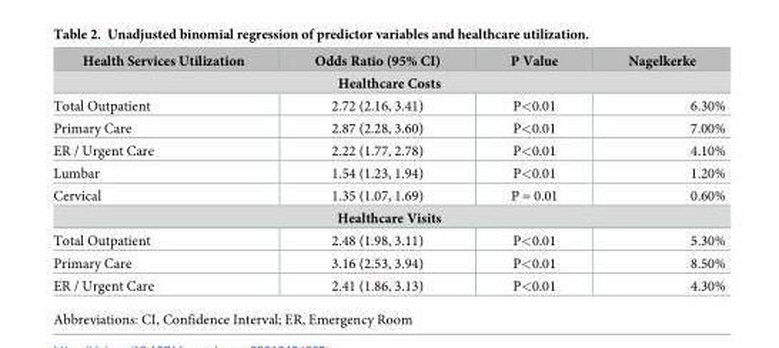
<table><thead><tr><td>Health Services Utilization</td><td>Odds Ratio (95% CI)</td><td>P Value</td><td>Nagelkerke</td></tr></thead><tbody><tr><td colspan="4">Healthcare Costs</td></tr><tr><td>Total Outpatient</td><td>2.72 (2.16, 3.41)</td><td>P&lt;0.01</td><td>6.30%</td></tr><tr><td>Primary Care</td><td>2.87 (2.28, 3.60)</td><td>P&lt;0.01</td><td>7.00%</td></tr><tr><td>ER / Urgent Care</td><td>2.22 (1.77, 2.78)</td><td>P&lt;0.01</td><td>4.10%</td></tr><tr><td>Lumbar</td><td>1.54 (1.23, 1.94)</td><td>P&lt;0.01</td><td>1.20%</td></tr><tr><td>Cervical</td><td>1.35 (1.07, 1.69)</td><td>P = 0.01</td><td>0.60%</td></tr><tr><td colspan="4">Healthcare Visits</td></tr><tr><td>Total Outpatient</td><td>2.48 (1.98, 3.11)</td><td>P&lt;0.01</td><td>5.30%</td></tr><tr><td>Primary Care</td><td>3.16 (2.53, 3.94)</td><td>P&lt;0.01</td><td>8.50%</td></tr><tr><td>ER / Urgent Care</td><td>2.41 (1.86, 3.13)</td><td>P&lt;0.01</td><td>4.30%</td></tr></tbody></table>